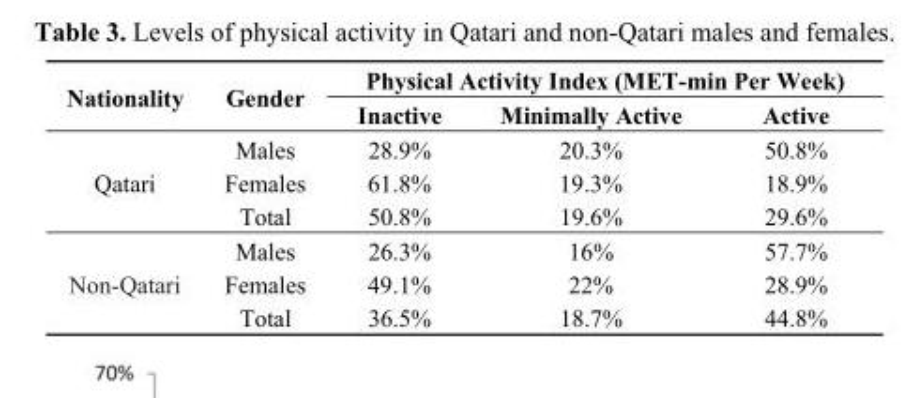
<table><thead><tr><td rowspan="2">Nationality</td><td rowspan="2">Gender</td><td colspan="3">Physical Activity Index (MET-min Per Week)</td></tr><tr><td>Inactive</td><td>Minimally Active</td><td>Active</td></tr></thead><tbody><tr><td rowspan="3">Qatari</td><td>Males</td><td>28.9%</td><td>20.3%</td><td>50.8%</td></tr><tr><td>Females</td><td>61.8%</td><td>19.3%</td><td>18.9%</td></tr><tr><td>Total</td><td>50.8%</td><td>19.6%</td><td>29.6%</td></tr><tr><td rowspan="3">Non-Qatari</td><td>Males</td><td>26.3%</td><td>16%</td><td>57.7%</td></tr><tr><td>Females</td><td>49.1%</td><td>22%</td><td>28.9%</td></tr><tr><td>Total</td><td>36.5%</td><td>18.7%</td><td>44.8%</td></tr></tbody></table>